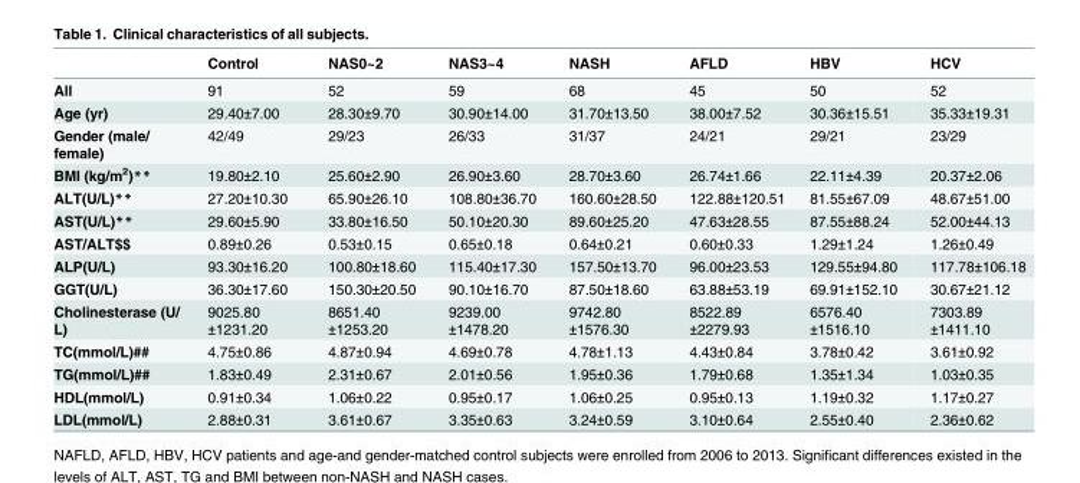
<table><thead><tr><td></td><td>Control</td><td>NAS0~2</td><td>NAS3~4</td><td>NASH</td><td>AFLD</td><td>HBV</td><td>HCV</td></tr></thead><tbody><tr><td>All</td><td>91</td><td>52</td><td>59</td><td>68</td><td>45</td><td>50</td><td>52</td></tr><tr><td>Age (yr)</td><td>29.40±7.00</td><td>28.30±9.70</td><td>30.90±14.00</td><td>31.70±13.50</td><td>38.00±7.52</td><td>30.36±15.51</td><td>35.33±19.31</td></tr><tr><td>Gender (male/ female)</td><td>42/49</td><td>29/23</td><td>26/33</td><td>31/37</td><td>24/21</td><td>29/21</td><td>23/29</td></tr><tr><td>BMI (kg/m<sup>2</sup>)**</td><td>19.80±2.10</td><td>25.60±2.90</td><td>26.90±3.60</td><td>28.70±3.60</td><td>26.74±1.66</td><td>22.11±4.39</td><td>20.37±2.06</td></tr><tr><td>ALT(U/L)**</td><td>27.20±10.30</td><td>65.90±26.10</td><td>108.80±36.70</td><td>160.60±28.50</td><td>122.88±120.51</td><td>81.55±67.09</td><td>48.67±51.00</td></tr><tr><td>AST(U/L)**</td><td>29.60±5.90</td><td>33.80±16.50</td><td>50.10±20.30</td><td>89.60±25.20</td><td>47.63±28.55</td><td>87.55±88.24</td><td>52.00±44.13</td></tr><tr><td>AST/ALT$$</td><td>0.89±0.26</td><td>0.53±0.15</td><td>0.65±0.18</td><td>0.64±0.21</td><td>0.60±0.33</td><td>1.29±1.24</td><td>1.26±0.49</td></tr><tr><td>ALP(U/L)</td><td>93.30±16.20</td><td>100.80±18.60</td><td>115.40±17.30</td><td>157.50±13.70</td><td>96.00±23.53</td><td>129.55±94.80</td><td>117.78±106.18</td></tr><tr><td>GGT(U/L)</td><td>36.30±17.60</td><td>150.30±20.50</td><td>90.10±16.70</td><td>87.50±18.60</td><td>63.88±53.19</td><td>69.91±152.10</td><td>30.67±21.12</td></tr><tr><td>Cholinesterase (U/ L)</td><td>9025.80 ±1231.20</td><td>8651.40 ±1253.20</td><td>9239.00 ±1478.20</td><td>9742.80 ±1576.30</td><td>8522.89 ±2279.93</td><td>6576.40 ±1516.10</td><td>7303.89 ±1411.10</td></tr><tr><td>TC(mmol/L)##</td><td>4.75±0.86</td><td>4.87±0.94</td><td>4.69±0.78</td><td>4.78±1.13</td><td>4.43±0.84</td><td>3.78±0.42</td><td>3.61±0.92</td></tr><tr><td>TG(mmol/L)##</td><td>1.83±0.49</td><td>2.31±0.67</td><td>2.01±0.56</td><td>1.95±0.36</td><td>1.79±0.68</td><td>1.35±1.34</td><td>1.03±0.35</td></tr><tr><td>HDL(mmol/L)</td><td>0.91±0.34</td><td>1.06±0.22</td><td>0.95±0.17</td><td>1.06±0.25</td><td>0.95±0.13</td><td>1.19±0.32</td><td>1.17±0.27</td></tr><tr><td>LDL(mmol/L)</td><td>2.88±0.31</td><td>3.61±0.67</td><td>3.35±0.63</td><td>3.24±0.59</td><td>3.10±0.64</td><td>2.55±0.40</td><td>2.36±0.62</td></tr></tbody></table>